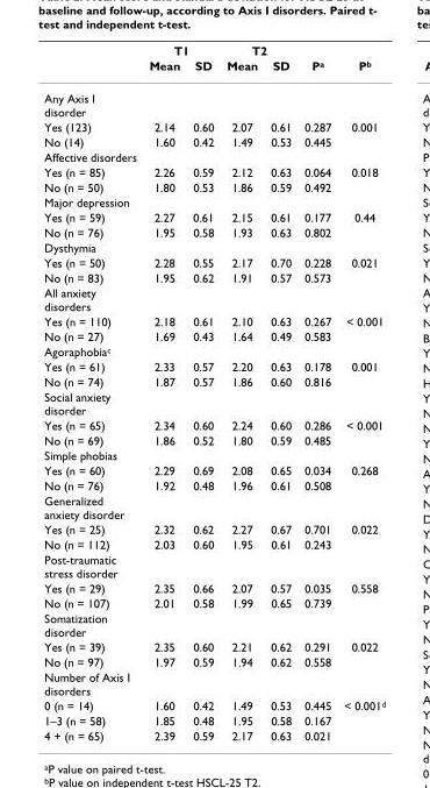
<table><thead><tr><td rowspan="2"></td><td colspan="2">T1</td><td colspan="2">T2</td><td rowspan="2">P<sup>a</sup></td><td rowspan="2">P<sup>b</sup></td></tr><tr><td>Mean</td><td>SD</td><td>Mean</td><td>SD</td></tr></thead><tbody><tr><td colspan="7">Any Axis I disorder</td></tr><tr><td>Yes (123)</td><td>2.14</td><td>0.60</td><td>2.07</td><td>0.61</td><td>0.287</td><td>0.001</td></tr><tr><td>No (14)</td><td>1.60</td><td>0.42</td><td>1.49</td><td>0.53</td><td>0.445</td><td></td></tr><tr><td colspan="7">Affective disorders</td></tr><tr><td>Yes (n = 85)</td><td>2.26</td><td>0.59</td><td>2.12</td><td>0.63</td><td>0.064</td><td>0.018</td></tr><tr><td>No (n = 50)</td><td>1.80</td><td>0.53</td><td>1.86</td><td>0.59</td><td>0.492</td><td></td></tr><tr><td colspan="7">Major depression</td></tr><tr><td>Yes (n = 59)</td><td>2.27</td><td>0.61</td><td>2.15</td><td>0.61</td><td>0.177</td><td>0.44</td></tr><tr><td>No (n = 76)</td><td>1.95</td><td>0.58</td><td>1.93</td><td>0.63</td><td>0.802</td><td></td></tr><tr><td colspan="7">Dysthymia</td></tr><tr><td>Yes (n = 50)</td><td>2.28</td><td>0.55</td><td>2.17</td><td>0.70</td><td>0.228</td><td>0.021</td></tr><tr><td>No (n = 83)</td><td>1.95</td><td>0.62</td><td>1.91</td><td>0.57</td><td>0.573</td><td></td></tr><tr><td colspan="7">All anxiety disorders</td></tr><tr><td>Yes (n = 110)</td><td>2.18</td><td>0.61</td><td>2.10</td><td>0.63</td><td>0.267</td><td>&lt; 0.001</td></tr><tr><td>No (n = 27)</td><td>1.69</td><td>0.43</td><td>1.64</td><td>0.49</td><td>0.583</td><td></td></tr><tr><td colspan="7">Agoraphobia<sup>c</sup></td></tr><tr><td>Yes (n = 61)</td><td>2.33</td><td>0.57</td><td>2.20</td><td>0.63</td><td>0.178</td><td>0.001</td></tr><tr><td>No (n = 74)</td><td>1.87</td><td>0.57</td><td>1.86</td><td>0.60</td><td>0.816</td><td></td></tr><tr><td colspan="7">Social anxiety disorder</td></tr><tr><td>Yes (n = 65)</td><td>2.34</td><td>0.60</td><td>2.24</td><td>0.60</td><td>0.286</td><td>&lt; 0.001</td></tr><tr><td>No (n = 69)</td><td>1.86</td><td>0.52</td><td>1.80</td><td>0.59</td><td>0.485</td><td></td></tr><tr><td colspan="7">Simple phobias</td></tr><tr><td>Yes (n = 60)</td><td>2.29</td><td>0.69</td><td>2.08</td><td>0.65</td><td>0.034</td><td>0.268</td></tr><tr><td>No (n = 76)</td><td>1.92</td><td>0.48</td><td>1.96</td><td>0.61</td><td>0.508</td><td></td></tr><tr><td colspan="7">Generalized anxiety disorder</td></tr><tr><td>Yes (n = 25)</td><td>2.32</td><td>0.62</td><td>2.27</td><td>0.67</td><td>0.701</td><td>0.022</td></tr><tr><td>No (n = 112)</td><td>2.03</td><td>0.60</td><td>1.95</td><td>0.61</td><td>0.243</td><td></td></tr><tr><td colspan="7">Post-traumatic stress disorder</td></tr><tr><td>Yes (n = 29)</td><td>2.35</td><td>0.66</td><td>2.07</td><td>0.57</td><td>0.035</td><td>0.558</td></tr><tr><td>No (n = 107)</td><td>2.01</td><td>0.58</td><td>1.99</td><td>0.65</td><td>0.739</td><td></td></tr><tr><td colspan="7">Somatization disorder</td></tr><tr><td>Yes (n = 39)</td><td>2.35</td><td>0.60</td><td>2.21</td><td>0.62</td><td>0.291</td><td>0.022</td></tr><tr><td>No (n = 97)</td><td>1.97</td><td>0.59</td><td>1.94</td><td>0.62</td><td>0.558</td><td></td></tr><tr><td colspan="7">Number of Axis I disorders</td></tr><tr><td>0 (n = 14)</td><td>1.60</td><td>0.42</td><td>1.49</td><td>0.53</td><td>0.445</td><td>&lt; 0.001<sup>d</sup></td></tr><tr><td>1–3 (n = 58)</td><td>1.85</td><td>0.48</td><td>1.95</td><td>0.58</td><td>0.167</td><td></td></tr><tr><td>4 + (n = 65)</td><td>2.39</td><td>0.59</td><td>2.17</td><td>0.63</td><td>0.021</td><td></td></tr></tbody></table>